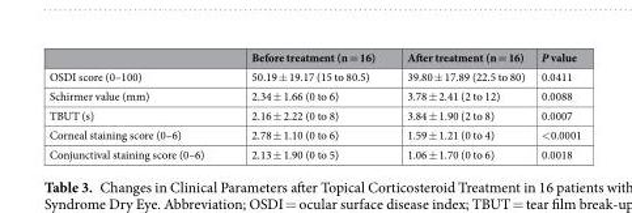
<table><thead><tr><td></td><td>Before treatment (n = 16)</td><td>After treatment (n = 16)</td><td>P value</td></tr></thead><tbody><tr><td>OSDI score (0–100)</td><td>50.19 ± 19.17 (15 to 80.5)</td><td>39.80 ± 17.89 (22.5 to 80)</td><td>0.0411</td></tr><tr><td>Schirmer value (mm)</td><td>2.34 ± 1.66 (0 to 6)</td><td>3.78 ± 2.41 (2 to 12)</td><td>0.0088</td></tr><tr><td>TBUT (s)</td><td>2.16 ± 2.22 (0 to 8)</td><td>3.84 ± 1.90 (2 to 8)</td><td>0.0007</td></tr><tr><td>Corneal staining score (0–6)</td><td>2.78 ± 1.10 (0 to 6)</td><td>1.59 ± 1.21 (0 to 4)</td><td>&lt;0.0001</td></tr><tr><td>Conjunctival staining score (0–6)</td><td>2.13 ± 1.90 (0 to 5)</td><td>1.06 ± 1.70 (0 to 6)</td><td>0.0018</td></tr></tbody></table>